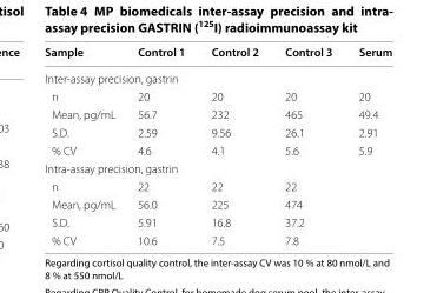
<table><thead><tr><td>Sample</td><td>Control 1</td><td>Control 2</td><td>Control 3</td><td>Serum</td></tr></thead><tbody><tr><td colspan="5">Inter-assay precision, gastrin</td></tr><tr><td>n</td><td>20</td><td>20</td><td>20</td><td>20</td></tr><tr><td>Mean, pg/mL</td><td>56.7</td><td>232</td><td>465</td><td>49.4</td></tr><tr><td>S.D.</td><td>2.59</td><td>9.56</td><td>26.1</td><td>2.91</td></tr><tr><td>% CV</td><td>4.6</td><td>4.1</td><td>5.6</td><td>5.9</td></tr><tr><td colspan="5">Intra-assay precision, gastrin</td></tr><tr><td>n</td><td>22</td><td>22</td><td>22</td><td></td></tr><tr><td>Mean, pg/mL</td><td>56.0</td><td>225</td><td>474</td><td></td></tr><tr><td>S.D.</td><td>5.91</td><td>16.8</td><td>37.2</td><td></td></tr><tr><td>% CV</td><td>10.6</td><td>7.5</td><td>7.8</td><td></td></tr></tbody></table>